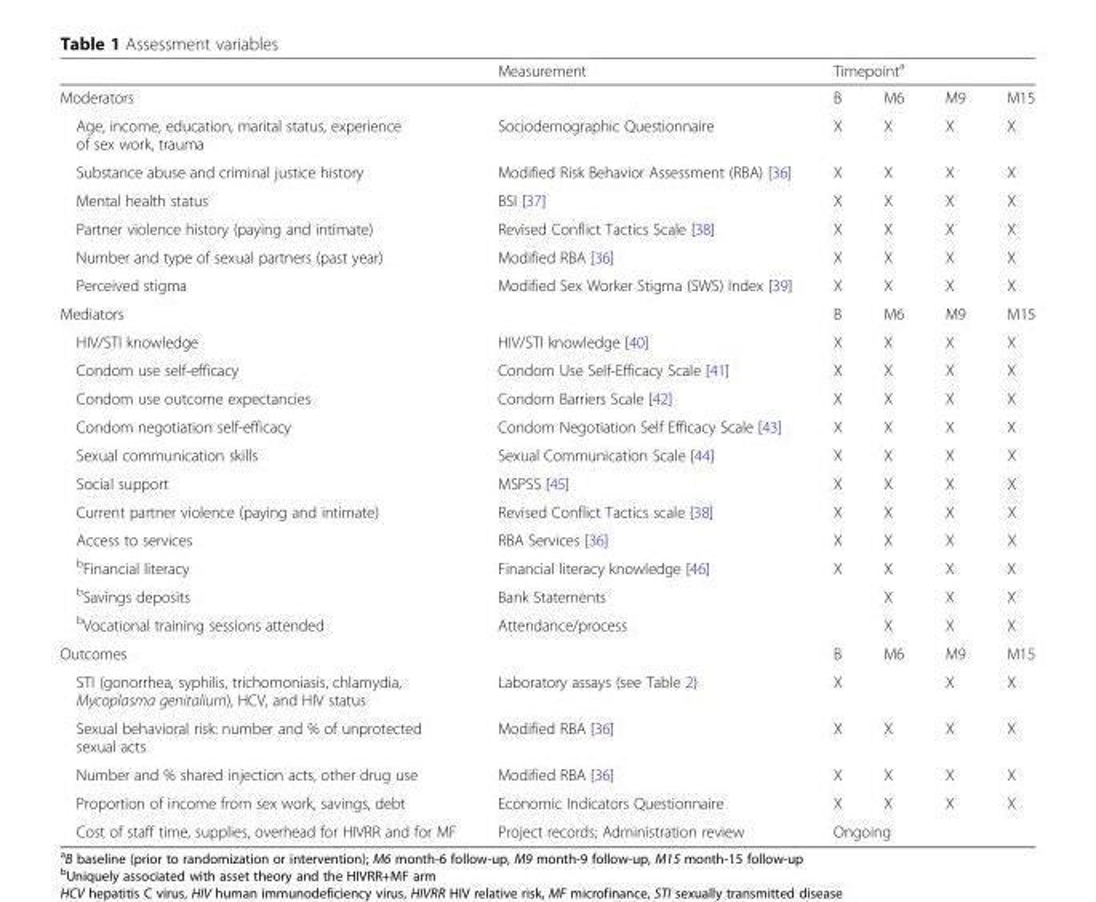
<table><thead><tr><td rowspan="2">Moderators</td><td rowspan="2">Measurement</td><td colspan="4">Timepoint<sup>a</sup></td></tr><tr><td>B</td><td>M6</td><td>M9</td><td>M15</td></tr></thead><tbody><tr><td>Age, income, education, marital status, experience of sex work, trauma</td><td>Sociodemographic Questionnaire</td><td>X</td><td>X</td><td>X</td><td>X</td></tr><tr><td>Substance abuse and criminal justice history</td><td>Modified Risk Behavior Assessment (RBA) [36]</td><td>X</td><td>X</td><td>X</td><td>X</td></tr><tr><td>Mental health status</td><td>BSI [37]</td><td>X</td><td>X</td><td>X</td><td>X</td></tr><tr><td>Partner violence history (paying and intimate)</td><td>Revised Conflict Tactics Scale [38]</td><td>X</td><td>X</td><td>X</td><td>X</td></tr><tr><td>Number and type of sexual partners (past year)</td><td>Modified RBA [36]</td><td>X</td><td>X</td><td>X</td><td>X</td></tr><tr><td>Perceived stigma</td><td>Modified Sex Worker Stigma (SWS) Index [39]</td><td>X</td><td>X</td><td>X</td><td>X</td></tr><tr><td>Mediators</td><td></td><td>B</td><td>M6</td><td>M9</td><td>M15</td></tr><tr><td>HIV/STI knowledge</td><td>HIV/STI knowledge [40]</td><td>X</td><td>X</td><td>X</td><td>X</td></tr><tr><td>Condom use self-efficacy</td><td>Condom Use Self-Efficacy Scale [41]</td><td>X</td><td>X</td><td>X</td><td>X</td></tr><tr><td>Condom use outcome expectancies</td><td>Condom Barriers Scale [42]</td><td>X</td><td>X</td><td>X</td><td>X</td></tr><tr><td>Condom negotiation self-efficacy</td><td>Condom Negotiation Self Efficacy Scale [43]</td><td>X</td><td>X</td><td>X</td><td>X</td></tr><tr><td>Sexual communication skills</td><td>Sexual Communication Scale [44]</td><td>X</td><td>X</td><td>X</td><td>X</td></tr><tr><td>Social support</td><td>MSPSS [45]</td><td>X</td><td>X</td><td>X</td><td>X</td></tr><tr><td>Current partner violence (paying and intimate)</td><td>Revised Conflict Tactics scale [38]</td><td>X</td><td>X</td><td>X</td><td>X</td></tr><tr><td>Access to services</td><td>RBA Services [36]</td><td>X</td><td>X</td><td>X</td><td>X</td></tr><tr><td><sup>b</sup>Financial literacy</td><td>Financial literacy knowledge [46]</td><td>X</td><td>X</td><td>X</td><td>X</td></tr><tr><td><sup>b</sup>Savings deposits</td><td>Bank Statements</td><td></td><td>X</td><td>X</td><td>X</td></tr><tr><td><sup>b</sup>Vocational training sessions attended</td><td>Attendance/process</td><td></td><td>X</td><td>X</td><td>X</td></tr><tr><td>Outcomes</td><td></td><td>B</td><td>M6</td><td>M9</td><td>M15</td></tr><tr><td>STI (gonorrhea, syphilis, trichomoniasis, chlamydia, Mycoplasma genitalium), HCV, and HIV status</td><td>Laboratory assays (see Table 2)</td><td>X</td><td></td><td>X</td><td>X</td></tr><tr><td>Sexual behavioral risk: number and % of unprotected sexual acts</td><td>Modified RBA [36]</td><td>X</td><td>X</td><td>X</td><td>X</td></tr><tr><td>Number and % shared injection acts, other drug use</td><td>Modified RBA [36]</td><td>X</td><td>X</td><td>X</td><td>X</td></tr><tr><td>Proportion of income from sex work, savings, debt</td><td>Economic Indicators Questionnaire</td><td>X</td><td>X</td><td>X</td><td>X</td></tr><tr><td>Cost of staff time, supplies, overhead for HIVRR and for MF</td><td>Project records; Administration review</td><td colspan="4">Ongoing</td></tr></tbody></table>